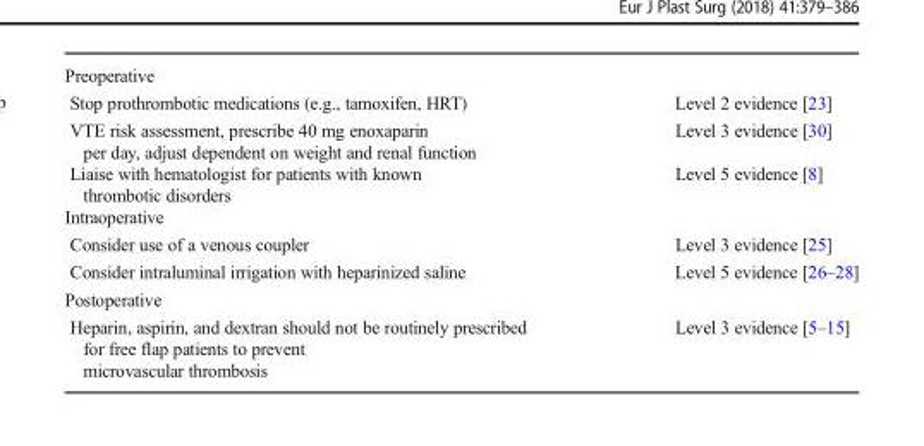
<table><tbody><tr><td colspan="2">Preoperative</td></tr><tr><td>Stop prothrombotic medications (e.g., tamoxifen, HRT)</td><td>Level 2 evidence [23]</td></tr><tr><td>VTE risk assessment, prescribe 40 mg enoxaparin per day, adjust dependent on weight and renal function</td><td>Level 3 evidence [30]</td></tr><tr><td>Liaise with hematologist for patients with known thrombotic disorders</td><td>Level 5 evidence [8]</td></tr><tr><td colspan="2">Intraoperative</td></tr><tr><td>Consider use of a venous coupler</td><td>Level 3 evidence [25]</td></tr><tr><td>Consider intraluminal irrigation with heparinized saline</td><td>Level 5 evidence [26–28]</td></tr><tr><td colspan="2">Postoperative</td></tr><tr><td>Heparin, aspirin, and dextran should not be routinely prescribed for free flap patients to prevent microvascular thrombosis</td><td>Level 3 evidence [5–15]</td></tr></tbody></table>